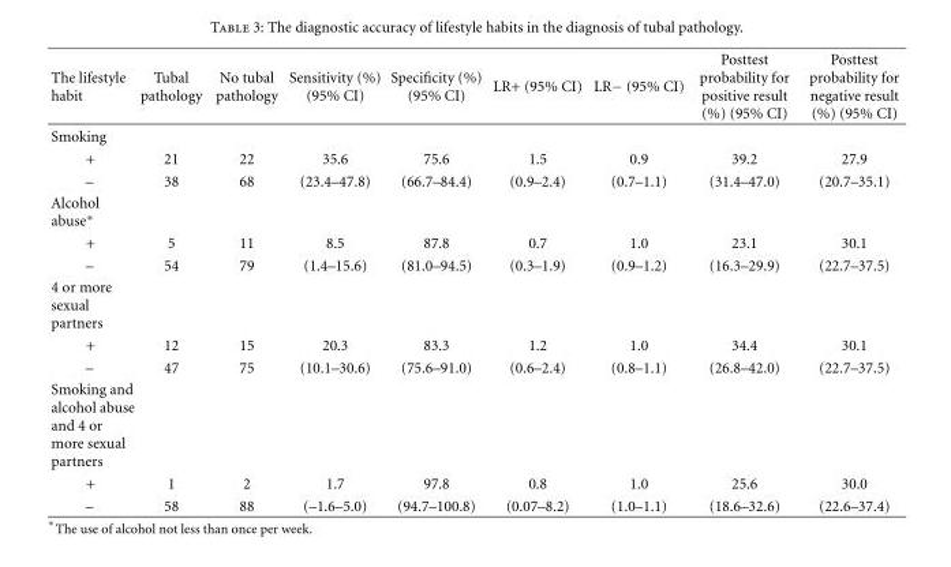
<table><thead><tr><td>The lifestyle habit</td><td>Tubal pathology</td><td>No tubal pathology</td><td>Sensitivity (%) (95% CI)</td><td>Specificity (%) (95% CI)</td><td>LR+ (95% CI)</td><td>LR− (95% CI)</td><td>Posttest probability for positive result (%) (95% CI)</td><td>Posttest probability for negative result (%) (95% CI)</td></tr></thead><tbody><tr><td colspan="9">Smoking</td></tr><tr><td>+</td><td>21</td><td>22</td><td>35.6</td><td>75.6</td><td>1.5</td><td>0.9</td><td>39.2</td><td>27.9</td></tr><tr><td>–</td><td>38</td><td>68</td><td>(23.4–47.8)</td><td>(66.7–84.4)</td><td>(0.9–2.4)</td><td>(0.7–1.1)</td><td>(31.4–47.0)</td><td>(20.7–35.1)</td></tr><tr><td colspan="9">Alcohol abuse∗</td></tr><tr><td>+</td><td>5</td><td>11</td><td>8.5</td><td>87.8</td><td>0.7</td><td>1.0</td><td>23.1</td><td>30.1</td></tr><tr><td>–</td><td>54</td><td>79</td><td>(1.4–15.6)</td><td>(81.0–94.5)</td><td>(0.3–1.9)</td><td>(0.9–1.2)</td><td>(16.3–29.9)</td><td>(22.7–37.5)</td></tr><tr><td colspan="9">4 or more sexual partners</td></tr><tr><td>+</td><td>12</td><td>15</td><td>20.3</td><td>83.3</td><td>1.2</td><td>1.0</td><td>34.4</td><td>30.1</td></tr><tr><td>–</td><td>47</td><td>75</td><td>(10.1–30.6)</td><td>(75.6–91.0)</td><td>(0.6–2.4)</td><td>(0.8–1.1)</td><td>(26.8–42.0)</td><td>(22.7–37.5)</td></tr><tr><td colspan="9">Smoking and alcohol abuse and 4 or more sexual partners</td></tr><tr><td>+</td><td>1</td><td>2</td><td>1.7</td><td>97.8</td><td>0.8</td><td>1.0</td><td>25.6</td><td>30.0</td></tr><tr><td>–</td><td>58</td><td>88</td><td>(–1.6–5.0)</td><td>(94.7–100.8)</td><td>(0.07–8.2)</td><td>(1.0–1.1)</td><td>(18.6–32.6)</td><td>(22.6–37.4)</td></tr></tbody></table>